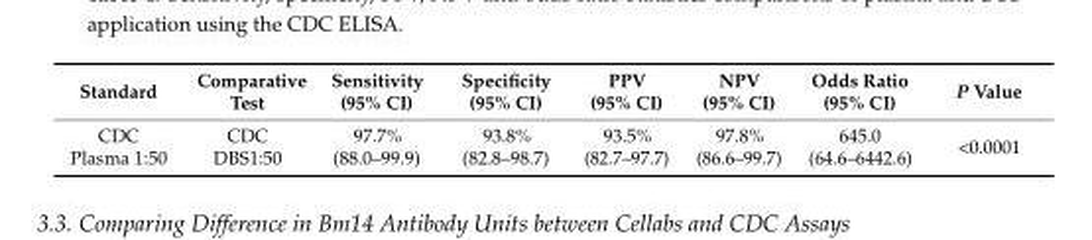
<table><thead><tr><td>Standard</td><td>Comparative Test</td><td>Sensitivity (95% CI)</td><td>Specificity (95% CI)</td><td>PPV (95% CI)</td><td>NPV (95% CI)</td><td>Odds Ratio (95% CI)</td><td>P Value</td></tr></thead><tbody><tr><td>CDC Plasma 1:50</td><td>CDC DBS1:50</td><td>97.7% (88.0–99.9)</td><td>93.8% (82.8–98.7)</td><td>93.5% (82.7–97.7)</td><td>97.8% (86.6–99.7)</td><td>645.0 (64.6–6442.6)</td><td>&lt;0.0001</td></tr></tbody></table>